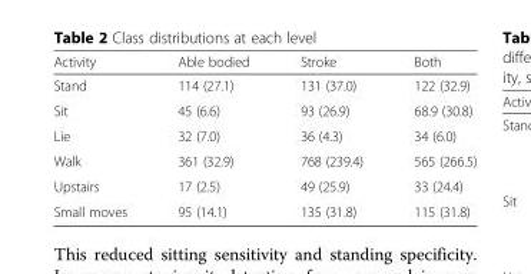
<table><thead><tr><td>Activity</td><td>Able bodied</td><td>Stroke</td><td>Both</td></tr></thead><tbody><tr><td>Stand</td><td>114 (27.1)</td><td>131 (37.0)</td><td>122 (32.9)</td></tr><tr><td>Sit</td><td>45 (6.6)</td><td>93 (26.9)</td><td>68.9 (30.8)</td></tr><tr><td>Lie</td><td>32 (7.0)</td><td>36 (4.3)</td><td>34 (6.0)</td></tr><tr><td>Walk</td><td>361 (32.9)</td><td>768 (239.4)</td><td>565 (266.5)</td></tr><tr><td>Upstairs</td><td>17 (2.5)</td><td>49 (25.9)</td><td>33 (24.4)</td></tr><tr><td>Small moves</td><td>95 (14.1)</td><td>135 (31.8)</td><td>115 (31.8)</td></tr></tbody></table>